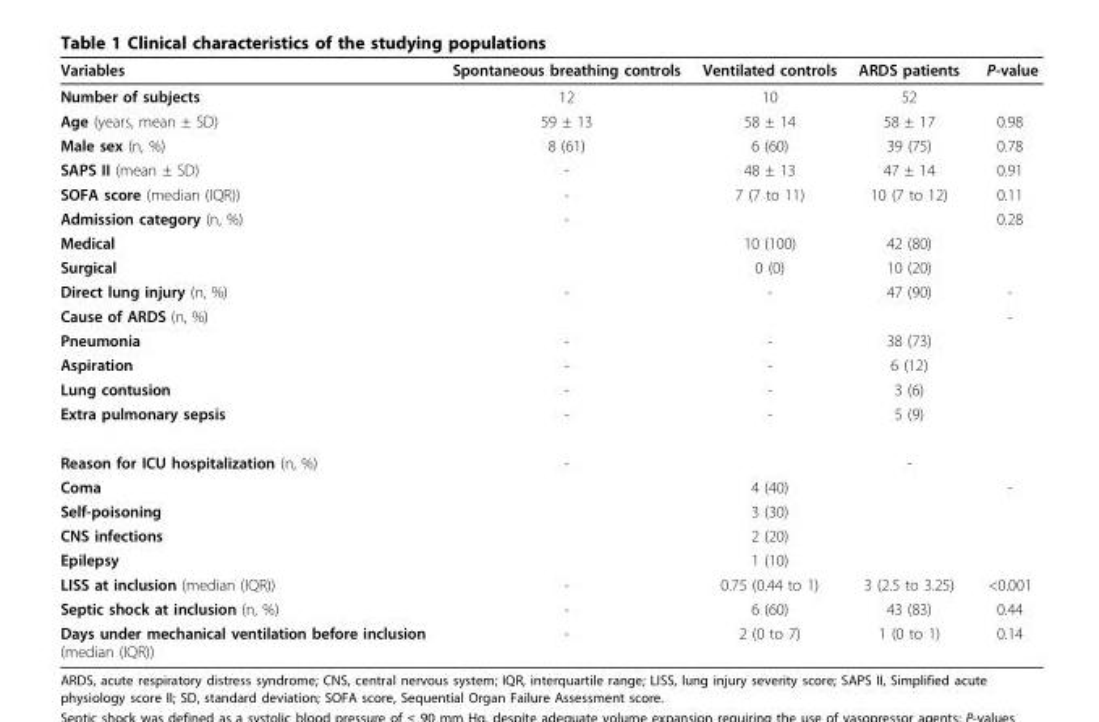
<table><thead><tr><td>Variables</td><td>Spontaneous breathing controls</td><td>Ventilated controls</td><td>ARDS patients</td><td>P-value</td></tr></thead><tbody><tr><td>Number of subjects</td><td>12</td><td>10</td><td>52</td><td></td></tr><tr><td>Age (years, mean ± SD)</td><td>59 ± 13</td><td>58 ± 14</td><td>58 ± 17</td><td>0.98</td></tr><tr><td>Male sex (n, %)</td><td>8 (61)</td><td>6 (60)</td><td>39 (75)</td><td>0.78</td></tr><tr><td>SAPS II (mean ± SD)</td><td>-</td><td>48 ± 13</td><td>47 ± 14</td><td>0.91</td></tr><tr><td>SOFA score (median (IQR))</td><td>-</td><td>7 (7 to 11)</td><td>10 (7 to 12)</td><td>0.11</td></tr><tr><td>Admission category (n, %)</td><td>-</td><td></td><td></td><td>0.28</td></tr><tr><td>Medical</td><td></td><td>10 (100)</td><td>42 (80)</td><td></td></tr><tr><td>Surgical</td><td></td><td>0 (0)</td><td>10 (20)</td><td></td></tr><tr><td>Direct lung injury (n, %)</td><td>-</td><td>-</td><td>47 (90)</td><td>-</td></tr><tr><td>Cause of ARDS (n, %)</td><td></td><td></td><td></td><td>-</td></tr><tr><td>Pneumonia</td><td>-</td><td>-</td><td>38 (73)</td><td></td></tr><tr><td>Aspiration</td><td>-</td><td>-</td><td>6 (12)</td><td></td></tr><tr><td>Lung contusion</td><td>-</td><td>-</td><td>3 (6)</td><td></td></tr><tr><td>Extra pulmonary sepsis</td><td>-</td><td>-</td><td>5 (9)</td><td></td></tr><tr><td>Reason for ICU hospitalization (n, %)</td><td>-</td><td></td><td>-</td><td></td></tr><tr><td>Coma</td><td></td><td>4 (40)</td><td></td><td>-</td></tr><tr><td>Self-poisoning</td><td></td><td>3 (30)</td><td></td><td></td></tr><tr><td>CNS infections</td><td></td><td>2 (20)</td><td></td><td></td></tr><tr><td>Epilepsy</td><td></td><td>1 (10)</td><td></td><td></td></tr><tr><td>LISS at inclusion (median (IQR))</td><td>-</td><td>0.75 (0.44 to 1)</td><td>3 (2.5 to 3.25)</td><td>&lt;0.001</td></tr><tr><td>Septic shock at inclusion (n, %)</td><td>-</td><td>6 (60)</td><td>43 (83)</td><td>0.44</td></tr><tr><td>Days under mechanical ventilation before inclusion (median (IQR))</td><td>-</td><td>2 (0 to 7)</td><td>1 (0 to 1)</td><td>0.14</td></tr></tbody></table>